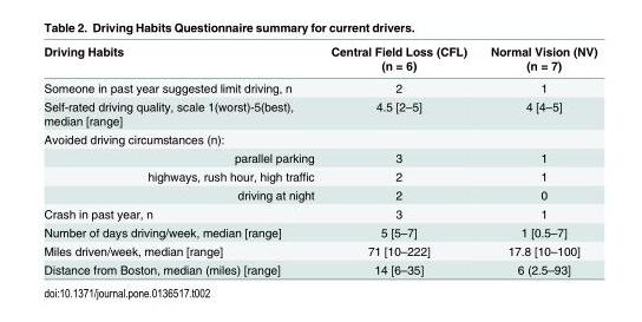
<table><thead><tr><td>Driving Habits</td><td>Central Field Loss (CFL) (n = 6)</td><td>Normal Vision (NV) (n = 7)</td></tr></thead><tbody><tr><td>Someone in past year suggested limit driving, n</td><td>2</td><td>1</td></tr><tr><td>Self-rated driving quality, scale 1(worst)-5(best), median [range]</td><td>4.5 [2–5]</td><td>4 [4–5]</td></tr><tr><td colspan="3">Avoided driving circumstances (n):</td></tr><tr><td>parallel parking</td><td>3</td><td>1</td></tr><tr><td>highways, rush hour, high traffic</td><td>2</td><td>1</td></tr><tr><td>driving at night</td><td>2</td><td>0</td></tr><tr><td>Crash in past year, n</td><td>3</td><td>1</td></tr><tr><td>Number of days driving/week, median [range]</td><td>5 [5–7]</td><td>1 [0.5–7]</td></tr><tr><td>Miles driven/week, median [range]</td><td>71 [10–222]</td><td>17.8 [10–100]</td></tr><tr><td>Distance from Boston, median (miles) [range]</td><td>14 [6–35]</td><td>6 (2.5–93]</td></tr></tbody></table>